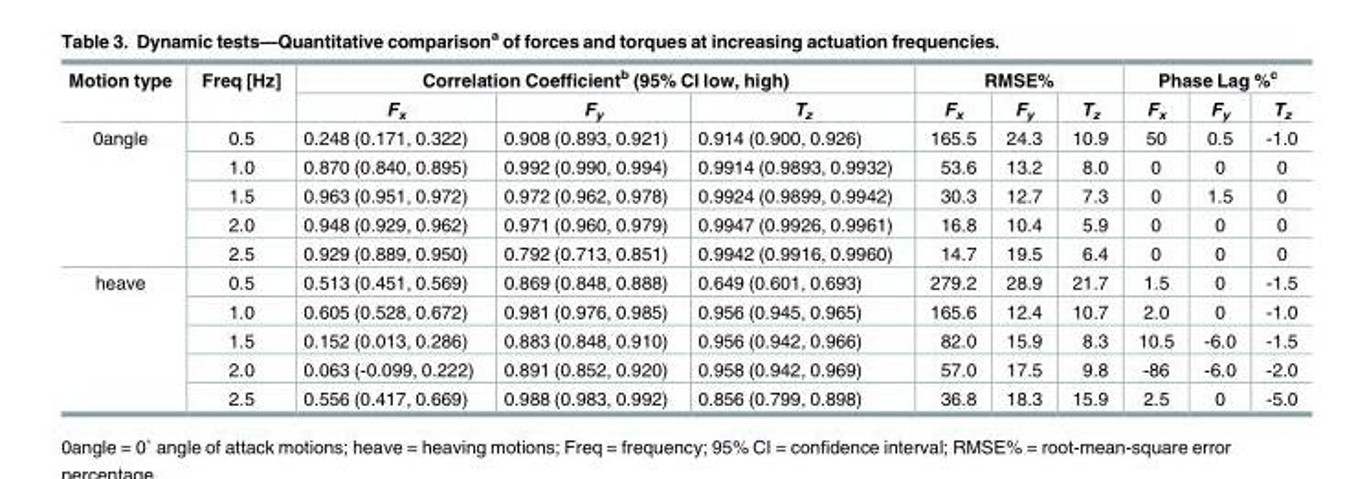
<table><thead><tr><td rowspan="2">Motion type</td><td rowspan="2">Freq [Hz]</td><td colspan="3">Correlation Coefficient<sup>b</sup> (95% CI low, high)</td><td colspan="3">RMSE%</td><td colspan="3">Phase Lag %<sup>c</sup></td></tr><tr><td>F<sub>x</sub></td><td>F<sub>y</sub></td><td>T<sub>z</sub></td><td>F<sub>x</sub></td><td>F<sub>y</sub></td><td>T<sub>z</sub></td><td>F<sub>x</sub></td><td>F<sub>y</sub></td><td>T<sub>z</sub></td></tr></thead><tbody><tr><td rowspan="5">0angle</td><td>0.5</td><td>0.248 (0.171, 0.322)</td><td>0.908 (0.893, 0.921)</td><td>0.914 (0.900, 0.926)</td><td>165.5</td><td>24.3</td><td>10.9</td><td>50</td><td>0.5</td><td>-1.0</td></tr><tr><td>1.0</td><td>0.870 (0.840, 0.895)</td><td>0.992 (0.990, 0.994)</td><td>0.9914 (0.9893, 0.9932)</td><td>53.6</td><td>13.2</td><td>8.0</td><td>0</td><td>0</td><td>0</td></tr><tr><td>1.5</td><td>0.963 (0.951, 0.972)</td><td>0.972 (0.962, 0.978)</td><td>0.9924 (0.9899, 0.9942)</td><td>30.3</td><td>12.7</td><td>7.3</td><td>0</td><td>1.5</td><td>0</td></tr><tr><td>2.0</td><td>0.948 (0.929, 0.962)</td><td>0.971 (0.960, 0.979)</td><td>0.9947 (0.9926, 0.9961)</td><td>16.8</td><td>10.4</td><td>5.9</td><td>0</td><td>0</td><td>0</td></tr><tr><td>2.5</td><td>0.929 (0.889, 0.950)</td><td>0.792 (0.713, 0.851)</td><td>0.9942 (0.9916, 0.9960)</td><td>14.7</td><td>19.5</td><td>6.4</td><td>0</td><td>0</td><td>0</td></tr><tr><td rowspan="5">heave</td><td>0.5</td><td>0.513 (0.451, 0.569)</td><td>0.869 (0.848, 0.888)</td><td>0.649 (0.601, 0.693)</td><td>279.2</td><td>28.9</td><td>21.7</td><td>1.5</td><td>0</td><td>-1.5</td></tr><tr><td>1.0</td><td>0.605 (0.528, 0.672)</td><td>0.981 (0.976, 0.985)</td><td>0.956 (0.945, 0.965)</td><td>165.6</td><td>12.4</td><td>10.7</td><td>2.0</td><td>0</td><td>-1.0</td></tr><tr><td>1.5</td><td>0.152 (0.013, 0.286)</td><td>0.883 (0.848, 0.910)</td><td>0.956 (0.942, 0.966)</td><td>82.0</td><td>15.9</td><td>8.3</td><td>10.5</td><td>-6.0</td><td>-1.5</td></tr><tr><td>2.0</td><td>0.063 (-0.099, 0.222)</td><td>0.891 (0.852, 0.920)</td><td>0.958 (0.942, 0.969)</td><td>57.0</td><td>17.5</td><td>9.8</td><td>-86</td><td>-6.0</td><td>-2.0</td></tr><tr><td>2.5</td><td>0.556 (0.417, 0.669)</td><td>0.988 (0.983, 0.992)</td><td>0.856 (0.799, 0.898)</td><td>36.8</td><td>18.3</td><td>15.9</td><td>2.5</td><td>0</td><td>-5.0</td></tr></tbody></table>